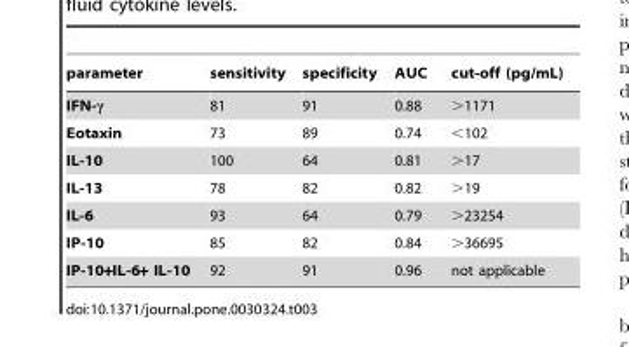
<table><thead><tr><td>parameter</td><td>sensitivity</td><td>specificity</td><td>AUC</td><td>cut-off (pg/mL)</td></tr></thead><tbody><tr><td>IFN-γ</td><td>81</td><td>91</td><td>0.88</td><td>&gt;1171</td></tr><tr><td>Eotaxin</td><td>73</td><td>89</td><td>0.74</td><td>&lt;102</td></tr><tr><td>IL-10</td><td>100</td><td>64</td><td>0.81</td><td>&gt;17</td></tr><tr><td>IL-13</td><td>78</td><td>82</td><td>0.82</td><td>&gt;19</td></tr><tr><td>IL-6</td><td>93</td><td>64</td><td>0.79</td><td>&gt;23254</td></tr><tr><td>IP-10</td><td>85</td><td>82</td><td>0.84</td><td>&gt;36695</td></tr><tr><td>IP-10+IL-6+ IL-10</td><td>92</td><td>91</td><td>0.96</td><td>not applicable</td></tr></tbody></table>